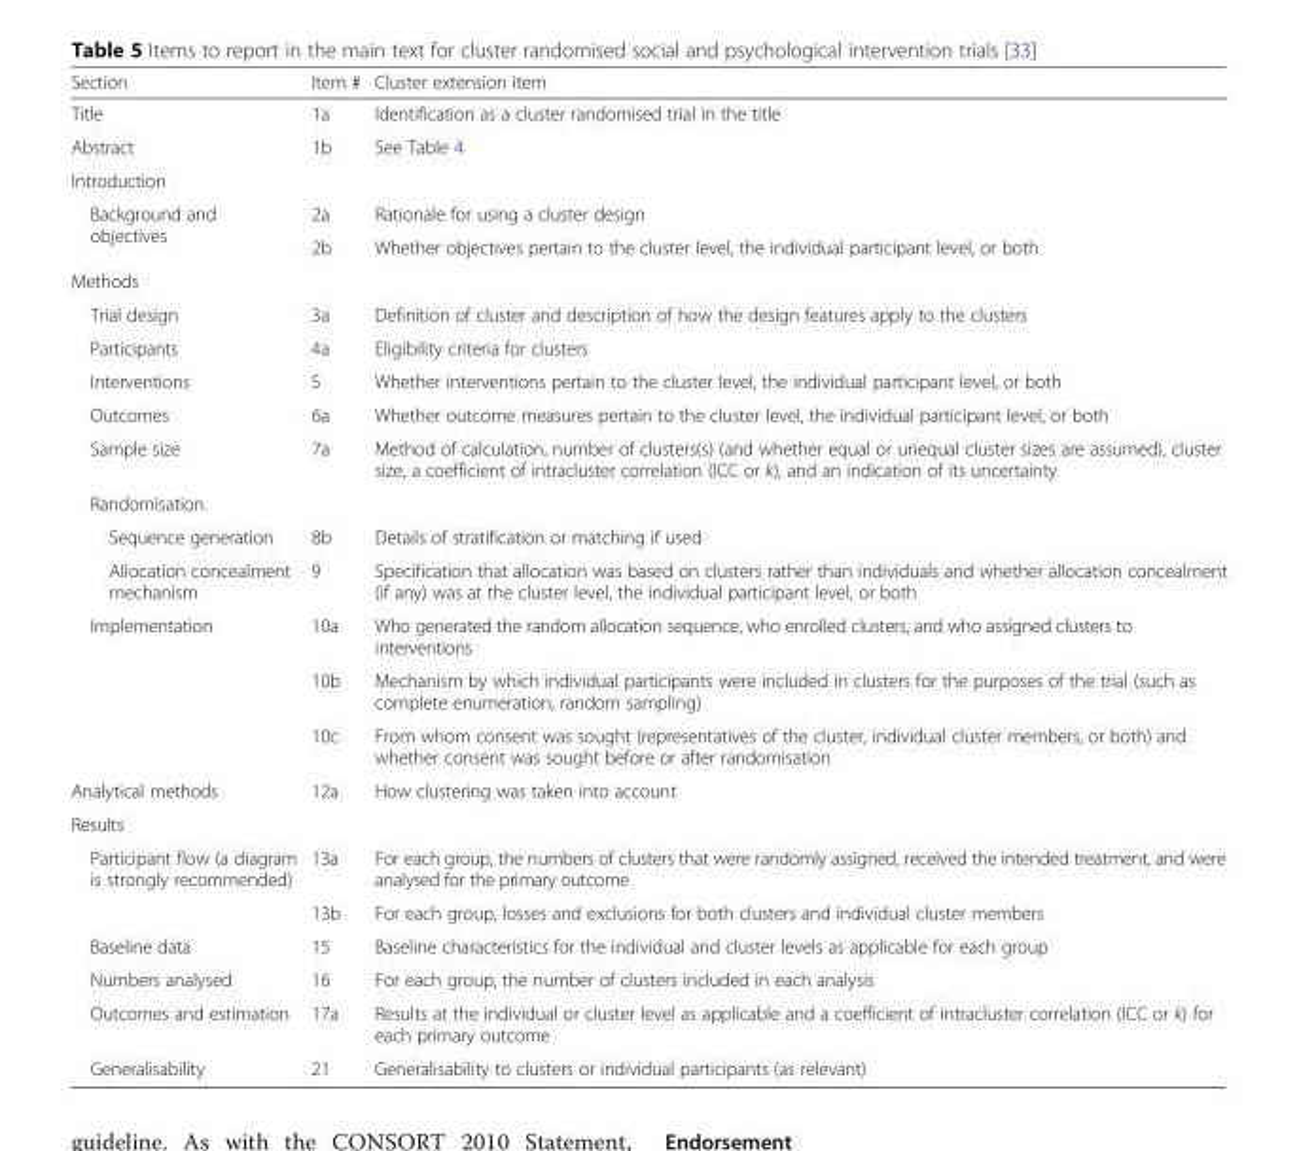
<table><thead><tr><td>Section</td><td>Item #</td><td>Cluster extension item</td></tr></thead><tbody><tr><td>Title</td><td>1a</td><td>Identification as a cluster randomised trial in the title</td></tr><tr><td>Abstract</td><td>1b</td><td>See Table 4</td></tr><tr><td colspan="3">Introduction</td></tr><tr><td rowspan="2">Background and objectives</td><td>2a</td><td>Rationale for using a cluster design</td></tr><tr><td>2b</td><td>Whether objectives pertain to the cluster level, the individual participant level, or both</td></tr><tr><td colspan="3">Methods</td></tr><tr><td>Trial design</td><td>3a</td><td>Definition of cluster and description of how the design features apply to the clusters</td></tr><tr><td>Participants</td><td>4a</td><td>Eligibility criteria for clusters</td></tr><tr><td>Interventions</td><td>5</td><td>Whether interventions pertain to the cluster level, the individual participant level, or both</td></tr><tr><td>Outcomes</td><td>6a</td><td>Whether outcome measures pertain to the cluster level, the individual participant level, or both</td></tr><tr><td>Sample size</td><td>7a</td><td>Method of calculation, number of clusters(s) (and whether equal or unequal cluster sizes are assumed), cluster size, a coefficient of intracluster correlation (ICC or k), and an indication of its uncertainty</td></tr><tr><td colspan="3">Randomisation</td></tr><tr><td>Sequence generation</td><td>8b</td><td>Details of stratification or matching if used</td></tr><tr><td>Allocation concealment mechanism</td><td>9</td><td>Specification that allocation was based on clusters rather than individuals and whether allocation concealment (if any) was at the cluster level, the individual participant level, or both</td></tr><tr><td rowspan="3">Implementation</td><td>10a</td><td>Who generated the random allocation sequence, who enrolled clusters, and who assigned clusters to interventions</td></tr><tr><td>10b</td><td>Mechanism by which individual participants were included in clusters for the purposes of the trial (such as complete enumeration, random sampling)</td></tr><tr><td>10c</td><td>From whom consent was sought (representatives of the cluster, individual cluster members, or both) and whether consent was sought before or after randomisation</td></tr><tr><td>Analytical methods</td><td>12a</td><td>How clustering was taken into account</td></tr><tr><td colspan="3">Results</td></tr><tr><td rowspan="2">Participant flow (a diagram is strongly recommended)</td><td>13a</td><td>For each group, the numbers of clusters that were randomly assigned, received the intended treatment, and were analysed for the primary outcome</td></tr><tr><td>13b</td><td>For each group, losses and exclusions for both clusters and individual cluster members</td></tr><tr><td>Baseline data</td><td>15</td><td>Baseline characteristics for the individual and cluster levels as applicable for each group</td></tr><tr><td>Numbers analysed</td><td>16</td><td>For each group, the number of clusters included in each analysis</td></tr><tr><td>Outcomes and estimation</td><td>17a</td><td>Results at the individual or cluster level as applicable and a coefficient of intracluster correlation (ICC or k) for each primary outcome</td></tr><tr><td>Generalisability</td><td>21</td><td>Generalisability to clusters or individual participants (as relevant)</td></tr></tbody></table>